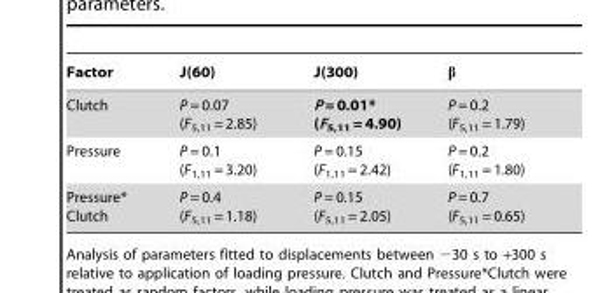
<table><thead><tr><td>Factor</td><td>J(60)</td><td>J(300)</td><td>β</td></tr></thead><tbody><tr><td>Clutch</td><td>P = 0.07 (F<sub>5,11</sub> = 2.85)</td><td>P = 0.01* (F<sub>5,11</sub> = 4.90)</td><td>P = 0.2 (F<sub>5,11</sub> = 1.79)</td></tr><tr><td>Pressure</td><td>P = 0.1 (F<sub>1,11</sub> = 3.20)</td><td>P = 0.15 (F<sub>1,11</sub> = 2.42)</td><td>P = 0.2 (F<sub>1,11</sub> = 1.80)</td></tr><tr><td>Pressure* Clutch</td><td>P = 0.4 (F<sub>5,11</sub> = 1.18)</td><td>P = 0.15 (F<sub>5,11</sub> = 2.05)</td><td>P = 0.7 (F<sub>5,11</sub> = 0.65)</td></tr></tbody></table>